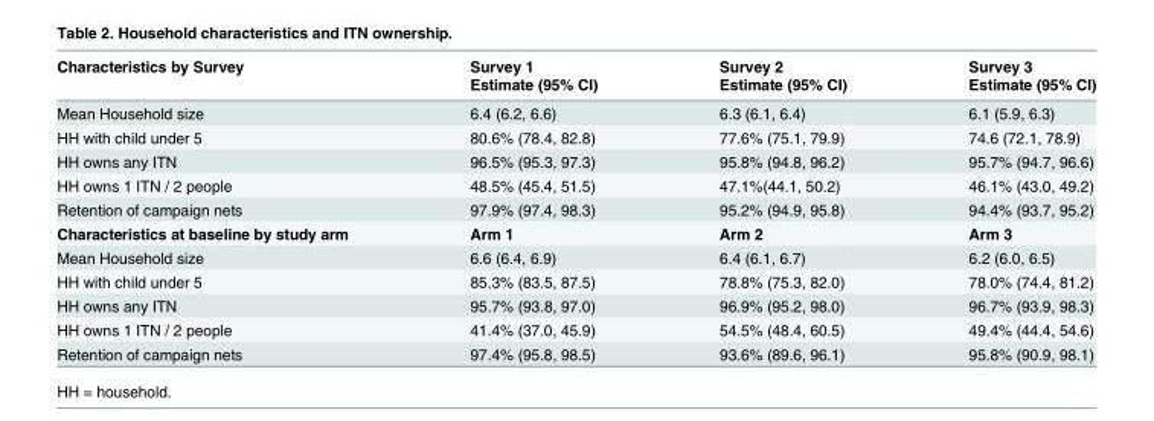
<table><thead><tr><td rowspan="2">Characteristics by Survey</td><td rowspan="2">Survey 1 Estimate (95% CI)</td><td rowspan="2">Survey 2 Estimate (95% CI)</td><td rowspan="2">Survey 3 Estimate (95% CI)</td></tr><tr></tr></thead><tbody><tr><td>Mean Household size</td><td>6.4 (6.2, 6.6)</td><td>6.3 (6.1, 6.4)</td><td>6.1 (5.9, 6.3)</td></tr><tr><td>HH with child under 5</td><td>80.6% (78.4, 82.8)</td><td>77.6% (75.1, 79.9)</td><td>74.6 (72.1, 78.9)</td></tr><tr><td>HH owns any ITN</td><td>96.5% (95.3, 97.3)</td><td>95.8% (94.8, 96.2)</td><td>95.7% (94.7, 96.6)</td></tr><tr><td>HH owns 1 ITN / 2 people</td><td>48.5% (45.4, 51.5)</td><td>47.1%(44.1, 50.2)</td><td>46.1% (43.0, 49.2)</td></tr><tr><td>Retention of campaign nets</td><td>97.9% (97.4, 98.3)</td><td>95.2% (94.9, 95.8)</td><td>94.4% (93.7, 95.2)</td></tr><tr><td>Characteristics at baseline by study arm</td><td>Arm 1</td><td>Arm 2</td><td>Arm 3</td></tr><tr><td>Mean Household size</td><td>6.6 (6.4, 6.9)</td><td>6.4 (6.1, 6.7)</td><td>6.2 (6.0, 6.5)</td></tr><tr><td>HH with child under 5</td><td>85.3% (83.5, 87.5)</td><td>78.8% (75.3, 82.0)</td><td>78.0% (74.4, 81.2)</td></tr><tr><td>HH owns any ITN</td><td>95.7% (93.8, 97.0)</td><td>96.9% (95.2, 98.0)</td><td>96.7% (93.9, 98.3)</td></tr><tr><td>HH owns 1 ITN / 2 people</td><td>41.4% (37.0, 45.9)</td><td>54.5% (48.4, 60.5)</td><td>49.4% (44.4, 54.6)</td></tr><tr><td>Retention of campaign nets</td><td>97.4% (95.8, 98.5)</td><td>93.6% (89.6, 96.1)</td><td>95.8% (90.9, 98.1)</td></tr></tbody></table>